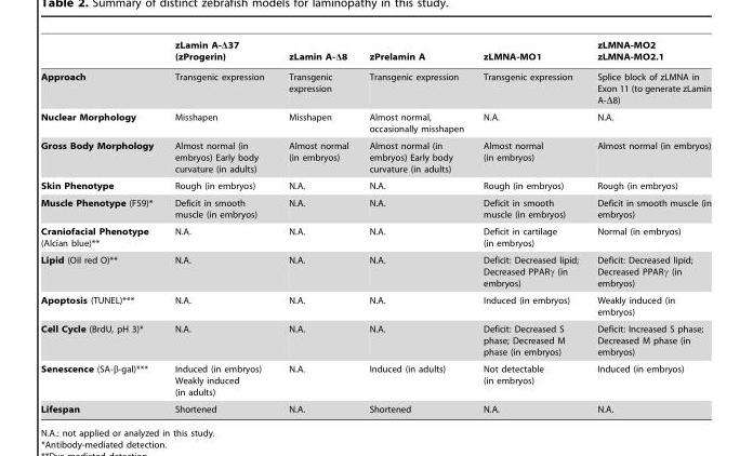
<table><thead><tr><td></td><td>zLamin A-Δ37 (zProgerin)</td><td>zLamin A-Δ8</td><td>zPrelamin A</td><td>zLMNA-MO1</td><td>zLMNA-MO2 zLMNA-MO2.1</td></tr></thead><tbody><tr><td>Approach</td><td>Transgenic expression</td><td>Transgenic expression</td><td>Transgenic expression</td><td>Transgenic expression</td><td>Splice block of zLMNA in Exon 11 (to generate zLamin A-Δ8)</td></tr><tr><td>Nuclear Morphology</td><td>Misshapen</td><td>Misshapen</td><td>Almost normal, occasionally misshapen</td><td>N.A.</td><td>N.A.</td></tr><tr><td>Gross Body Morphology</td><td>Almost normal (in embryos) Early body curvature (in adults)</td><td>Almost normal (in embryos)</td><td>Almost normal (in embryos) Early body curvature (in adults)</td><td>Almost normal (in embryos)</td><td>Almost normal (in embryos)</td></tr><tr><td>Skin Phenotype</td><td>Rough (in embryos)</td><td>N.A.</td><td>N.A.</td><td>Rough (in embryos)</td><td>Rough (in embryos)</td></tr><tr><td>Muscle Phenotype (F59)*</td><td>Deficit in smooth muscle (in embryos)</td><td>N.A.</td><td>N.A.</td><td>Deficit in smooth muscle (in embryos)</td><td>Deficit in smooth muscle (in embryos)</td></tr><tr><td>Craniofacial Phenotype (Alcian blue)**</td><td>N.A.</td><td>N.A.</td><td>N.A.</td><td>Deficit in cartilage (in embryos)</td><td>Normal (in embryos)</td></tr><tr><td>Lipid (Oil red O)**</td><td>N.A.</td><td>N.A.</td><td>N.A.</td><td>Deficit: Decreased lipid; Decreased PPARγ (in embryos)</td><td>Deficit: Decreased lipid; Decreased PPARγ (in embryos)</td></tr><tr><td>Apoptosis (TUNEL)***</td><td>N.A.</td><td>N.A.</td><td>N.A.</td><td>Induced (in embryos)</td><td>Weakly induced (in embryos)</td></tr><tr><td>Cell Cycle (BrdU, pH 3)*</td><td>N.A.</td><td>N.A.</td><td>N.A.</td><td>Deficit: Decreased S phase; Decreased M phase (in embryos)</td><td>Deficit: Increased S phase; Decreased M phase (in embryos)</td></tr><tr><td>Senescence (SA-β-gal)***</td><td>Induced (in embryos) Weakly induced (in adults)</td><td>N.A.</td><td>Induced (in adults)</td><td>Not detectable (in embryos)</td><td>Induced (in embryos)</td></tr><tr><td>Lifespan</td><td>Shortened</td><td>N.A.</td><td>Shortened</td><td>N.A.</td><td>N.A.</td></tr></tbody></table>